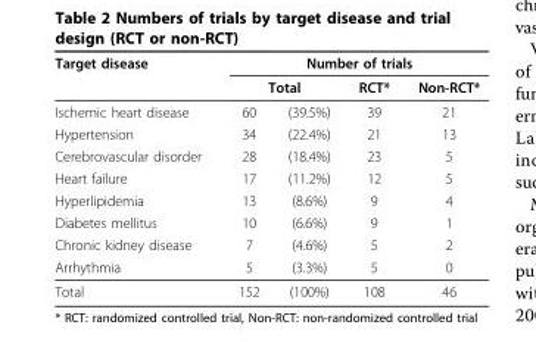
<table><thead><tr><td rowspan="3">Target disease Ischemic heart disease</td><td colspan="4">Number of trials</td></tr><tr><td colspan="2">Total</td><td rowspan="2">RCT* 39</td><td rowspan="2">Non-RCT* 21</td></tr><tr><td>60</td><td>(39.5%)</td></tr></thead><tbody><tr><td>Hypertension</td><td>34</td><td>(22.4%)</td><td>21</td><td>13</td></tr><tr><td>Cerebrovascular disorder</td><td>28</td><td>(18.4%)</td><td>23</td><td>5</td></tr><tr><td>Heart failure</td><td>17</td><td>(11.2%)</td><td>12</td><td>5</td></tr><tr><td>Hyperlipidemia</td><td>13</td><td>(8.6%)</td><td>9</td><td>4</td></tr><tr><td>Diabetes mellitus</td><td>10</td><td>(6.6%)</td><td>9</td><td>1</td></tr><tr><td>Chronic kidney disease</td><td>7</td><td>(4.6%)</td><td>5</td><td>2</td></tr><tr><td>Arrhythmia</td><td>5</td><td>(3.3%)</td><td>5</td><td>0</td></tr><tr><td>Total</td><td>152</td><td>(100%)</td><td>108</td><td>46</td></tr></tbody></table>